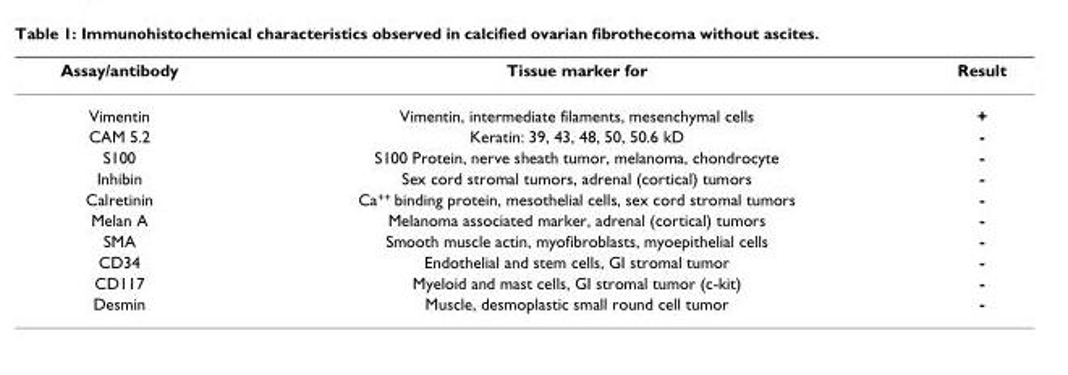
<table><thead><tr><td>Assay/antibody</td><td>Tissue marker for</td><td>Result</td></tr></thead><tbody><tr><td>Vimentin</td><td>Vimentin, intermediate filaments, mesenchymal cells</td><td>+</td></tr><tr><td>CAM 5.2</td><td>Keratin: 39, 43, 48, 50, 50.6 kD</td><td>-</td></tr><tr><td>S100</td><td>S100 Protein, nerve sheath tumor, melanoma, chondrocyte</td><td>-</td></tr><tr><td>Inhibin</td><td>Sex cord stromal tumors, adrenal (cortical) tumors</td><td>-</td></tr><tr><td>Calretinin</td><td>Ca<sup>++</sup> binding protein, mesothelial cells, sex cord stromal tumors</td><td>-</td></tr><tr><td>Melan A</td><td>Melanoma associated marker, adrenal (cortical) tumors</td><td>-</td></tr><tr><td>SMA</td><td>Smooth muscle actin, myofibroblasts, myoepithelial cells</td><td>-</td></tr><tr><td>CD34</td><td>Endothelial and stem cells, GI stromal tumor</td><td>-</td></tr><tr><td>CD117</td><td>Myeloid and mast cells, GI stromal tumor (c-kit)</td><td>-</td></tr><tr><td>Desmin</td><td>Muscle, desmoplastic small round cell tumor</td><td>-</td></tr></tbody></table>